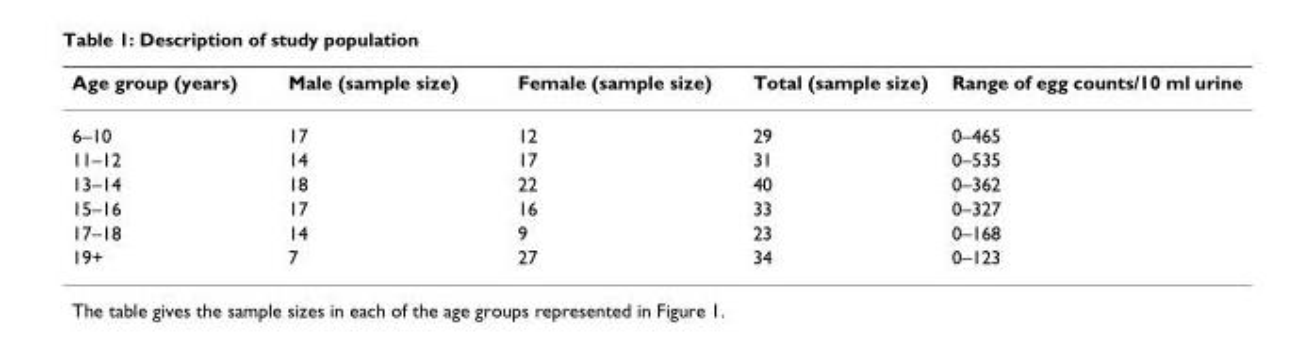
<table><thead><tr><td>Age group (years)</td><td>Male (sample size)</td><td>Female (sample size)</td><td>Total (sample size)</td><td>Range of egg counts/10 ml urine</td></tr></thead><tbody><tr><td>6–10</td><td>17</td><td>12</td><td>29</td><td>0–465</td></tr><tr><td>11–12</td><td>14</td><td>17</td><td>31</td><td>0–535</td></tr><tr><td>13–14</td><td>18</td><td>22</td><td>40</td><td>0–362</td></tr><tr><td>15–16</td><td>17</td><td>16</td><td>33</td><td>0–327</td></tr><tr><td>17–18</td><td>14</td><td>9</td><td>23</td><td>0–168</td></tr><tr><td>19+</td><td>7</td><td>27</td><td>34</td><td>0–123</td></tr></tbody></table>